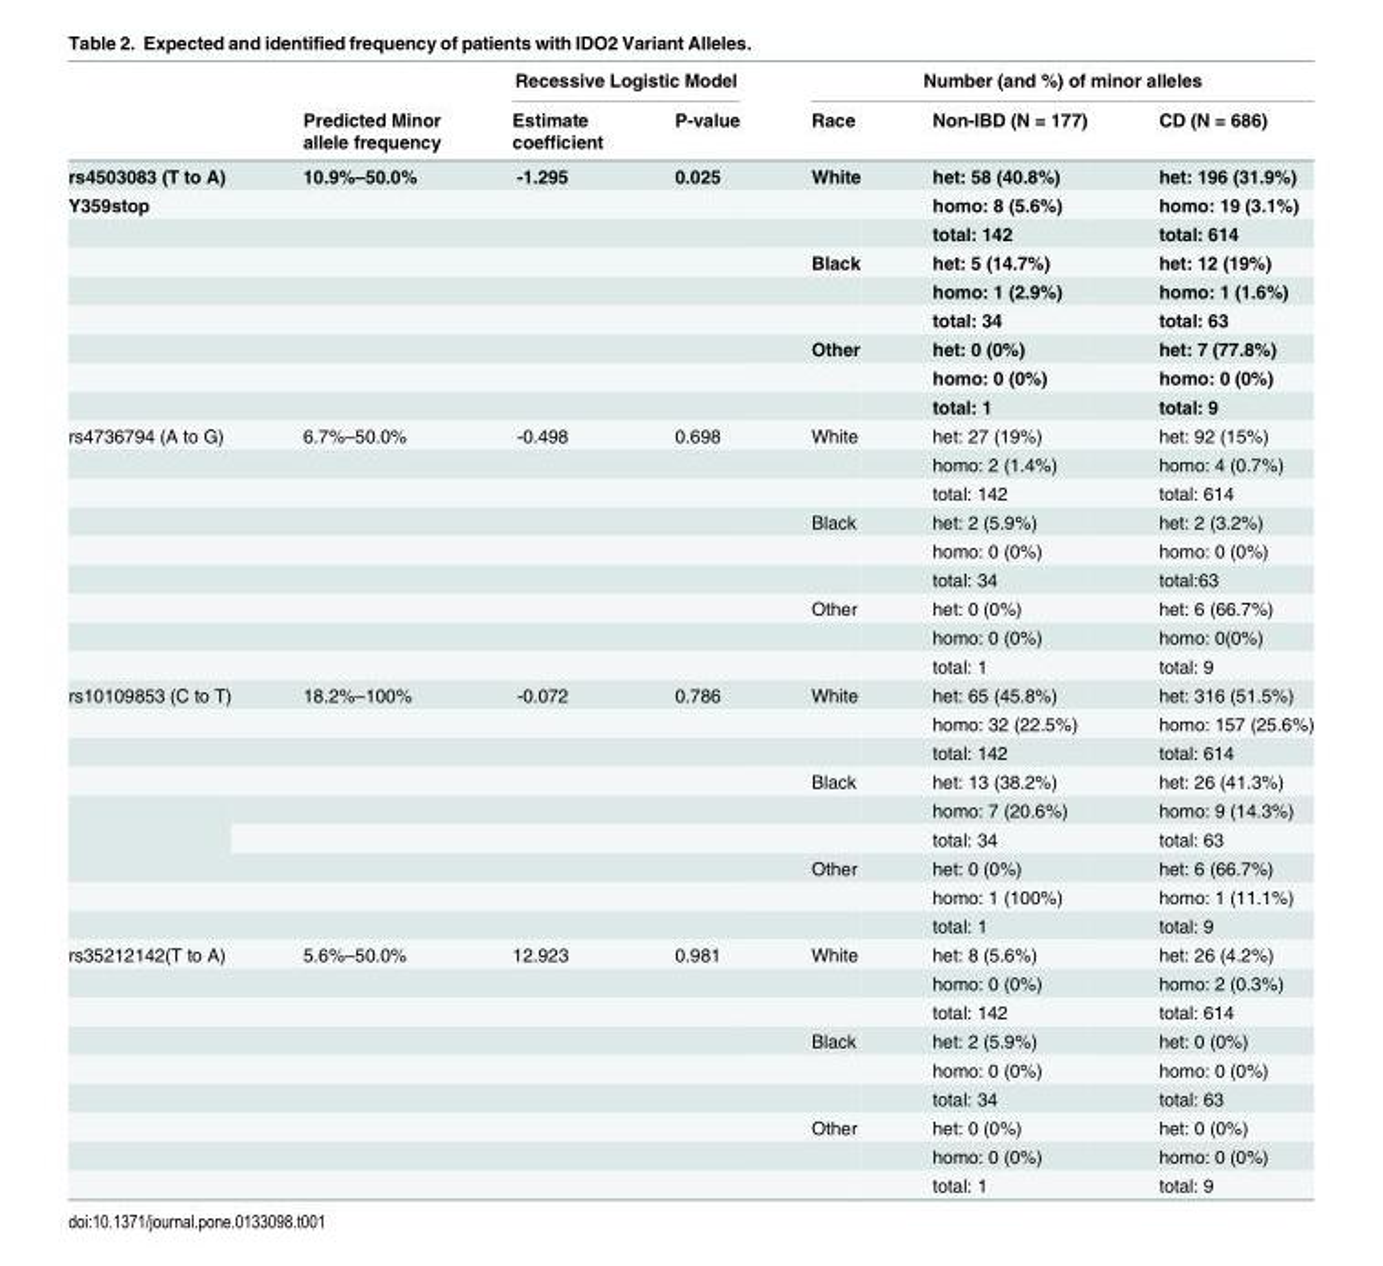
<table><thead><tr><td rowspan="2"></td><td rowspan="2">Predicted Minor allele frequency</td><td colspan="2">Recessive Logistic Model</td><td colspan="3">Number (and %) of minor alleles</td></tr><tr><td>Estimate coefficient</td><td>P-value</td><td>Race</td><td>Non-IBD (N = 177)</td><td>CD (N = 686)</td></tr></thead><tbody><tr><td>rs4503083 (T to A)</td><td>10.9%–50.0%</td><td>-1.295</td><td>0.025</td><td>White</td><td>het: 58 (40.8%)</td><td>het: 196 (31.9%)</td></tr><tr><td rowspan="8">Y359stop</td><td></td><td></td><td></td><td></td><td>homo: 8 (5.6%)</td><td>homo: 19 (3.1%)</td></tr><tr><td></td><td></td><td></td><td></td><td>total: 142</td><td>total: 614</td></tr><tr><td></td><td></td><td></td><td>Black</td><td>het: 5 (14.7%)</td><td>het: 12 (19%)</td></tr><tr><td></td><td></td><td></td><td></td><td>homo: 1 (2.9%)</td><td>homo: 1 (1.6%)</td></tr><tr><td></td><td></td><td></td><td></td><td>total: 34</td><td>total: 63</td></tr><tr><td></td><td></td><td></td><td>Other</td><td>het: 0 (0%)</td><td>het: 7 (77.8%)</td></tr><tr><td></td><td></td><td></td><td></td><td>homo: 0 (0%)</td><td>homo: 0 (0%)</td></tr><tr><td></td><td></td><td></td><td></td><td>total: 1</td><td>total: 9</td></tr><tr><td rowspan="9">rs4736794 (A to G)</td><td>6.7%–50.0%</td><td>-0.498</td><td>0.698</td><td>White</td><td>het: 27 (19%)</td><td>het: 92 (15%)</td></tr><tr><td></td><td></td><td></td><td></td><td>homo: 2 (1.4%)</td><td>homo: 4 (0.7%)</td></tr><tr><td></td><td></td><td></td><td></td><td>total: 142</td><td>total: 614</td></tr><tr><td></td><td></td><td></td><td>Black</td><td>het: 2 (5.9%)</td><td>het: 2 (3.2%)</td></tr><tr><td></td><td></td><td></td><td></td><td>homo: 0 (0%)</td><td>homo: 0 (0%)</td></tr><tr><td></td><td></td><td></td><td></td><td>total: 34</td><td>total:63</td></tr><tr><td></td><td></td><td></td><td>Other</td><td>het: 0 (0%)</td><td>het: 6 (66.7%)</td></tr><tr><td></td><td></td><td></td><td></td><td>homo: 0 (0%)</td><td>homo: 0(0%)</td></tr><tr><td></td><td></td><td></td><td></td><td>total: 1</td><td>total: 9</td></tr><tr><td rowspan="9">rs10109853 (C to T)</td><td>18.2%–100%</td><td>-0.072</td><td>0.786</td><td>White</td><td>het: 65 (45.8%)</td><td>het: 316 (51.5%)</td></tr><tr><td></td><td></td><td></td><td></td><td>homo: 32 (22.5%)</td><td>homo: 157 (25.6%)</td></tr><tr><td></td><td></td><td></td><td></td><td>total: 142</td><td>total: 614</td></tr><tr><td></td><td></td><td></td><td>Black</td><td>het: 13 (38.2%)</td><td>het: 26 (41.3%)</td></tr><tr><td></td><td></td><td></td><td></td><td>homo: 7 (20.6%)</td><td>homo: 9 (14.3%)</td></tr><tr><td></td><td></td><td></td><td></td><td>total: 34</td><td>total: 63</td></tr><tr><td></td><td></td><td></td><td>Other</td><td>het: 0 (0%)</td><td>het: 6 (66.7%)</td></tr><tr><td></td><td></td><td></td><td></td><td>homo: 1 (100%)</td><td>homo: 1 (11.1%)</td></tr><tr><td></td><td></td><td></td><td></td><td>total: 1</td><td>total: 9</td></tr><tr><td rowspan="9">rs35212142(T to A)</td><td>5.6%–50.0%</td><td>12.923</td><td>0.981</td><td>White</td><td>het: 8 (5.6%)</td><td>het: 26 (4.2%)</td></tr><tr><td></td><td></td><td></td><td></td><td>homo: 0 (0%)</td><td>homo: 2 (0.3%)</td></tr><tr><td></td><td></td><td></td><td></td><td>total: 142</td><td>total: 614</td></tr><tr><td></td><td></td><td></td><td>Black</td><td>het: 2 (5.9%)</td><td>het: 0 (0%)</td></tr><tr><td></td><td></td><td></td><td></td><td>homo: 0 (0%)</td><td>homo: 0 (0%)</td></tr><tr><td></td><td></td><td></td><td></td><td>total: 34</td><td>total: 63</td></tr><tr><td></td><td></td><td></td><td>Other</td><td>het: 0 (0%)</td><td>het: 0 (0%)</td></tr><tr><td></td><td></td><td></td><td></td><td>homo: 0 (0%)</td><td>homo: 0 (0%)</td></tr><tr><td></td><td></td><td></td><td></td><td>total: 1</td><td>total: 9</td></tr></tbody></table>